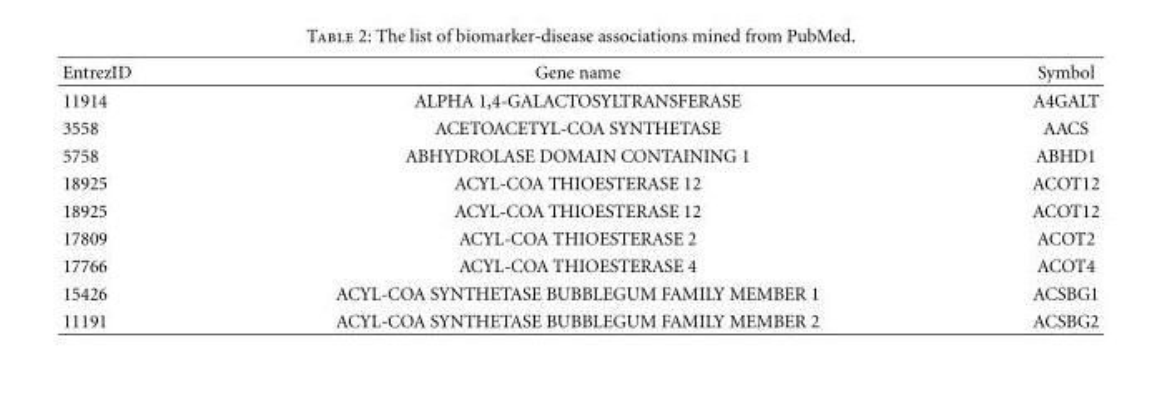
<table><thead><tr><td>EntrezID</td><td>Gene name</td><td>Symbol</td></tr></thead><tbody><tr><td>11914</td><td>ALPHA 1,4-GALACTOSYLTRANSFERASE</td><td>A4GALT</td></tr><tr><td>3558</td><td>ACETOACETYL-COA SYNTHETASE</td><td>AACS</td></tr><tr><td>5758</td><td>ABHYDROLASE DOMAIN CONTAINING 1</td><td>ABHD1</td></tr><tr><td>18925</td><td>ACYL-COA THIOESTERASE 12</td><td>ACOT12</td></tr><tr><td>18925</td><td>ACYL-COA THIOESTERASE 12</td><td>ACOT12</td></tr><tr><td>17809</td><td>ACYL-COA THIOESTERASE 2</td><td>ACOT2</td></tr><tr><td>17766</td><td>ACYL-COA THIOESTERASE 4</td><td>ACOT4</td></tr><tr><td>15426</td><td>ACYL-COA SYNTHETASE BUBBLEGUM FAMILY MEMBER 1</td><td>ACSBG1</td></tr><tr><td>11191</td><td>ACYL-COA SYNTHETASE BUBBLEGUM FAMILY MEMBER 2</td><td>ACSBG2</td></tr></tbody></table>